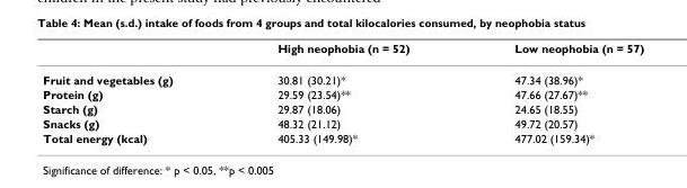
<table><thead><tr><td></td><td>High neophobia (n = 52)</td><td>Low neophobia (n = 57)</td></tr></thead><tbody><tr><td>Fruit and vegetables (g)</td><td>30.81 (30.21)*</td><td>47.34 (38.96)*</td></tr><tr><td>Protein (g)</td><td>29.59 (23.54)**</td><td>47.66 (27.67)**</td></tr><tr><td>Starch (g)</td><td>29.87 (18.06)</td><td>24.65 (18.55)</td></tr><tr><td>Snacks (g)</td><td>48.32 (21.12)</td><td>49.72 (20.57)</td></tr><tr><td>Total energy (kcal)</td><td>405.33 (149.98)*</td><td>477.02 (159.34)*</td></tr></tbody></table>